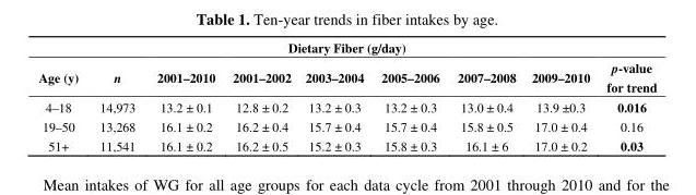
<table><thead><tr><td colspan="9">Dietary Fiber (g/day)</td></tr><tr><td>Age (y)</td><td>n</td><td>2001–2010</td><td>2001–2002</td><td>2003–2004</td><td>2005–2006</td><td>2007–2008</td><td>2009–2010</td><td>p-value for trend</td></tr></thead><tbody><tr><td>4–18</td><td>14,973</td><td>13.2 ± 0.1</td><td>12.8 ± 0.2</td><td>13.2 ± 0.3</td><td>13.2 ± 0.3</td><td>13.0 ± 0.4</td><td>13.9 ±0.3</td><td>0.016</td></tr><tr><td>19–50</td><td>13,268</td><td>16.1 ± 0.2</td><td>16.2 ± 0.4</td><td>15.7 ± 0.4</td><td>15.7 ± 0.4</td><td>15.8 ± 0.5</td><td>17.0 ± 0.4</td><td>0.16</td></tr><tr><td>51+</td><td>11,541</td><td>16.1 ± 0.2</td><td>16.2 ± 0.5</td><td>15.2 ± 0.3</td><td>15.8 ± 0.3</td><td>16.1 ± 6</td><td>17.0 ± 0.2</td><td>0.03</td></tr></tbody></table>